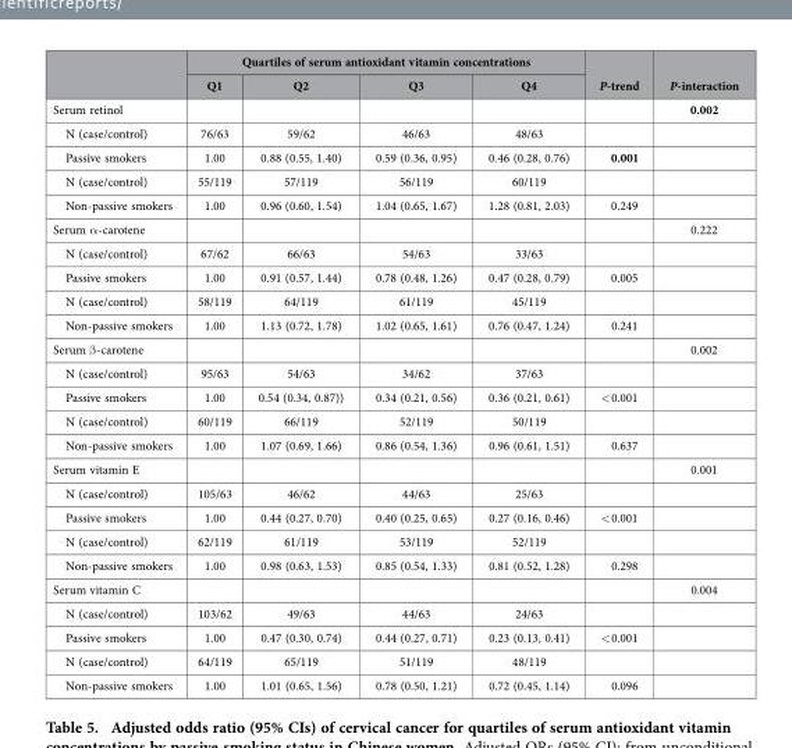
<table><thead><tr><td rowspan="2"></td><td colspan="4">Quartiles of serum antioxidant vitamin concentrations</td><td rowspan="2">P-trend</td><td rowspan="2">P-interaction</td></tr><tr><td>Q1</td><td>Q2</td><td>Q3</td><td>Q4</td></tr></thead><tbody><tr><td>Serum retinol</td><td></td><td></td><td></td><td></td><td></td><td>0.002</td></tr><tr><td>N (case/control)</td><td>76/63</td><td>59/62</td><td>46/63</td><td>48/63</td><td></td><td></td></tr><tr><td>Passive smokers</td><td>1.00</td><td>0.88 (0.55, 1.40)</td><td>0.59 (0.36, 0.95)</td><td>0.46 (0.28, 0.76)</td><td>0.001</td><td></td></tr><tr><td>N (case/control)</td><td>55/119</td><td>57/119</td><td>56/119</td><td>60/119</td><td></td><td></td></tr><tr><td>Non-passive smokers</td><td>1.00</td><td>0.96 (0.60, 1.54)</td><td>1.04 (0.65, 1.67)</td><td>1.28 (0.81, 2.03)</td><td>0.249</td><td></td></tr><tr><td>Serum α -carotene</td><td></td><td></td><td></td><td></td><td></td><td>0.222</td></tr><tr><td>N (case/control)</td><td>67/62</td><td>66/63</td><td>54/63</td><td>33/63</td><td></td><td></td></tr><tr><td>Passive smokers</td><td>1.00</td><td>0.91 (0.57, 1.44)</td><td>0.78 (0.48, 1.26)</td><td>0.47 (0.28, 0.79)</td><td>0.005</td><td></td></tr><tr><td>N (case/control)</td><td>58/119</td><td>64/119</td><td>61/119</td><td>45/119</td><td></td><td></td></tr><tr><td>Non-passive smokers</td><td>1.00</td><td>1.13 (0.72, 1.78)</td><td>1.02 (0.65, 1.61)</td><td>0.76 (0.47, 1.24)</td><td>0.241</td><td></td></tr><tr><td>Serum β -carotene</td><td></td><td></td><td></td><td></td><td></td><td>0.002</td></tr><tr><td>N (case/control)</td><td>95/63</td><td>54/63</td><td>34/62</td><td>37/63</td><td></td><td></td></tr><tr><td>Passive smokers</td><td>1.00</td><td>0.54 (0.34, 0.87))</td><td>0.34 (0.21, 0.56)</td><td>0.36 (0.21, 0.61)</td><td>&lt; 0.001</td><td></td></tr><tr><td>N (case/control)</td><td>60/119</td><td>66/119</td><td>52/119</td><td>50/119</td><td></td><td></td></tr><tr><td>Non-passive smokers</td><td>1.00</td><td>1.07 (0.69, 1.66)</td><td>0.86 (0.54, 1.36)</td><td>0.96 (0.61, 1.51)</td><td>0.637</td><td></td></tr><tr><td>Serum vitamin E</td><td></td><td></td><td></td><td></td><td></td><td>0.001</td></tr><tr><td>N (case/control)</td><td>105/63</td><td>46/62</td><td>44/63</td><td>25/63</td><td></td><td></td></tr><tr><td>Passive smokers</td><td>1.00</td><td>0.44 (0.27, 0.70)</td><td>0.40 (0.25, 0.65)</td><td>0.27 (0.16, 0.46)</td><td>&lt; 0.001</td><td></td></tr><tr><td>N (case/control)</td><td>62/119</td><td>61/119</td><td>53/119</td><td>52/119</td><td></td><td></td></tr><tr><td>Non-passive smokers</td><td>1.00</td><td>0.98 (0.63, 1.53)</td><td>0.85 (0.54, 1.33)</td><td>0.81 (0.52, 1.28)</td><td>0.298</td><td></td></tr><tr><td>Serum vitamin C</td><td></td><td></td><td></td><td></td><td></td><td>0.004</td></tr><tr><td>N (case/control)</td><td>103/62</td><td>49/63</td><td>44/63</td><td>24/63</td><td></td><td></td></tr><tr><td>Passive smokers</td><td>1.00</td><td>0.47 (0.30, 0.74)</td><td>0.44 (0.27, 0.71)</td><td>0.23 (0.13, 0.41)</td><td>&lt; 0.001</td><td></td></tr><tr><td>N (case/control)</td><td>64/119</td><td>65/119</td><td>51/119</td><td>48/119</td><td></td><td></td></tr><tr><td>Non-passive smokers</td><td>1.00</td><td>1.01 (0.65, 1.56)</td><td>0.78 (0.50, 1.21)</td><td>0.72 (0.45, 1.14)</td><td>0.096</td><td></td></tr></tbody></table>